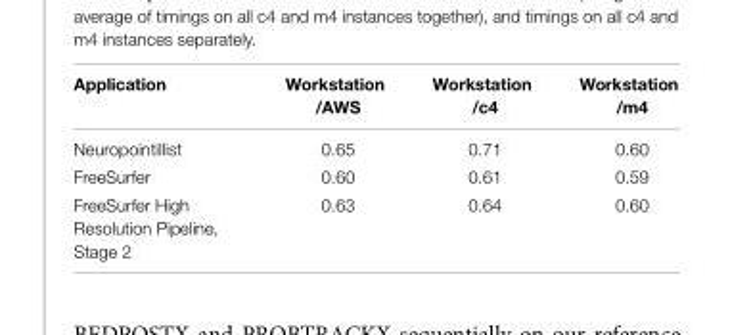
<table><thead><tr><td>Application</td><td>Workstation /AWS</td><td>Workstation /c4</td><td>Workstation /m4</td></tr></thead><tbody><tr><td>Neuropointillist</td><td>0.65</td><td>0.71</td><td>0.60</td></tr><tr><td>FreeSurfer</td><td>0.60</td><td>0.61</td><td>0.59</td></tr><tr><td>FreeSurfer High Resolution Pipeline, Stage 2</td><td>0.63</td><td>0.64</td><td>0.60</td></tr></tbody></table>